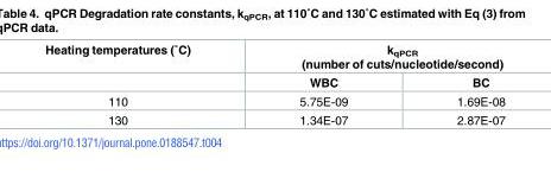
<table><thead><tr><td rowspan="2">Heating temperatures (˚C)</td><td colspan="2">k<sub>qPCR</sub> (number of cuts/nucleotide/second)</td></tr><tr><td>WBC</td><td>BC</td></tr></thead><tbody><tr><td>110</td><td>5.75E-09</td><td>1.69E-08</td></tr><tr><td>130</td><td>1.34E-07</td><td>2.87E-07</td></tr></tbody></table>